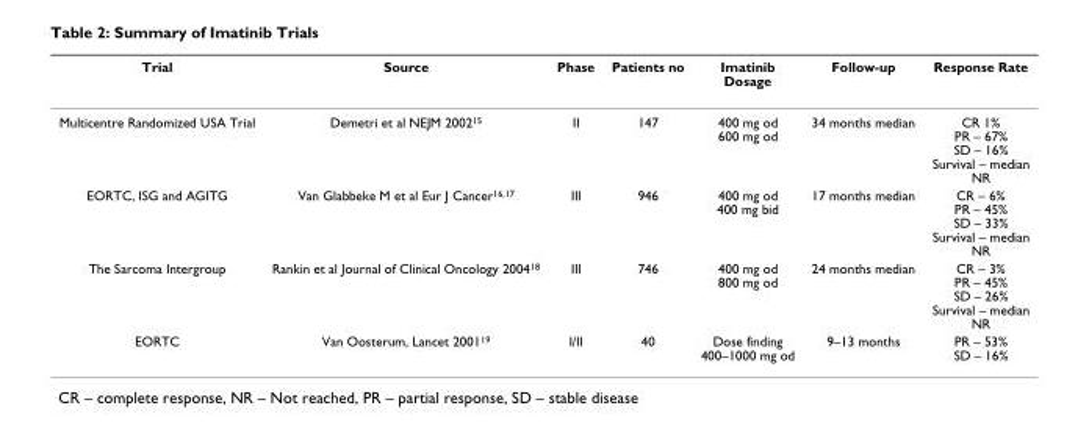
<table><thead><tr><td>Trial</td><td>Source</td><td>Phase</td><td>Patients no</td><td>Imatinib Dosage</td><td>Follow-up</td><td>Response Rate</td></tr></thead><tbody><tr><td>Multicentre Randomized USA Trial</td><td>Demetri et al NEJM 2002<sup>15</sup></td><td>II</td><td>147</td><td>400 mg od 600 mg od</td><td>34 months median</td><td>CR 1% PR – 67% SD – 16% Survival – median NR</td></tr><tr><td>EORTC, ISG and AGITG</td><td>Van Glabbeke M et al Eur J Cancer<sup>16,17</sup></td><td>III</td><td>946</td><td>400 mg od 400 mg bid</td><td>17 months median</td><td>CR – 6% PR – 45% SD – 33% Survival – median NR</td></tr><tr><td>The Sarcoma Intergroup</td><td>Rankin et al Journal of Clinical Oncology 2004<sup>18</sup></td><td>III</td><td>746</td><td>400 mg od 800 mg od</td><td>24 months median</td><td>CR – 3% PR – 45% SD – 26% Survival – median NR</td></tr><tr><td>EORTC</td><td>Van Oosterum, Lancet 2001<sup>19</sup></td><td>I/II</td><td>40</td><td>Dose finding 400–1000 mg od</td><td>9–13 months</td><td>PR – 53% SD – 16%</td></tr></tbody></table>